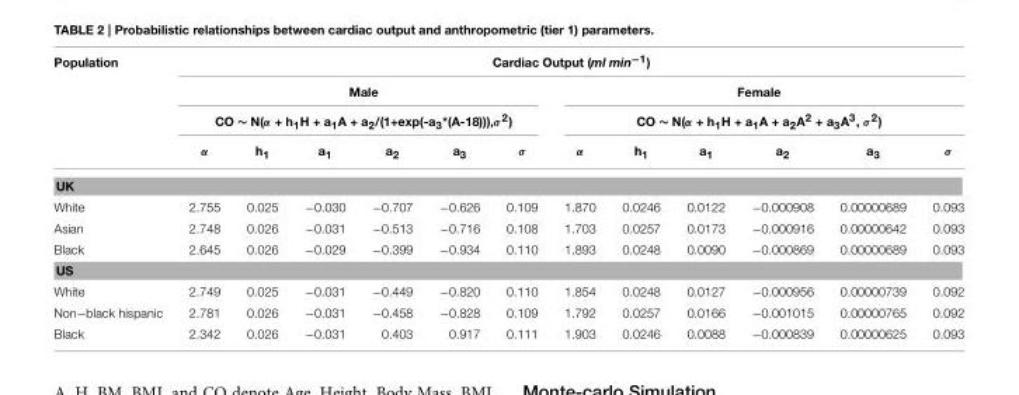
<table><thead><tr><td rowspan="4">Population</td><td colspan="12">Cardiac Output (ml min−1)</td></tr><tr><td rowspan="2" colspan="6">Male CO ∼ N(α + h1H + a1A + a2/(1+exp(-a3*(A-18))),σ 2)</td><td rowspan="2" colspan="6">Female CO ∼ N(α + h1H + a1A + a2A2 + a3A3, σ2)</td></tr><tr></tr><tr><td>α</td><td>h<sub>1</sub></td><td>a<sub>1</sub></td><td>a<sub>2</sub></td><td>a<sub>3</sub></td><td>σ</td><td>α</td><td>h<sub>1</sub></td><td>a<sub>1</sub></td><td>a<sub>2</sub></td><td>a<sub>3</sub></td><td>σ</td></tr></thead><tbody><tr><td colspan="13">UK</td></tr><tr><td>White</td><td>2.755</td><td>0.025</td><td>−0.030</td><td>−0.707</td><td>−0.626</td><td>0.109</td><td>1.870</td><td>0.0246</td><td>0.0122</td><td>−0.000908</td><td>0.00000689</td><td>0.093</td></tr><tr><td>Asian</td><td>2.748</td><td>0.026</td><td>−0.031</td><td>−0.513</td><td>−0.716</td><td>0.108</td><td>1.703</td><td>0.0257</td><td>0.0173</td><td>−0.000916</td><td>0.00000642</td><td>0.093</td></tr><tr><td>Black</td><td>2.645</td><td>0.026</td><td>−0.029</td><td>−0.399</td><td>−0.934</td><td>0.110</td><td>1.893</td><td>0.0248</td><td>0.0090</td><td>−0.000869</td><td>0.00000689</td><td>0.093</td></tr><tr><td colspan="13">US</td></tr><tr><td>White</td><td>2.749</td><td>0.025</td><td>−0.031</td><td>−0.449</td><td>−0.820</td><td>0.110</td><td>1.854</td><td>0.0248</td><td>0.0127</td><td>−0.000956</td><td>0.00000739</td><td>0.092</td></tr><tr><td>Non−black hispanic</td><td>2.781</td><td>0.026</td><td>−0.031</td><td>−0.458</td><td>−0.828</td><td>0.109</td><td>1.792</td><td>0.0257</td><td>0.0166</td><td>−0.001015</td><td>0.00000765</td><td>0.092</td></tr><tr><td>Black</td><td>2.342</td><td>0.026</td><td>−0.031</td><td>0.403</td><td>0.917</td><td>0.111</td><td>1.903</td><td>0.0246</td><td>0.0088</td><td>−0.000839</td><td>0.00000625</td><td>0.093</td></tr></tbody></table>